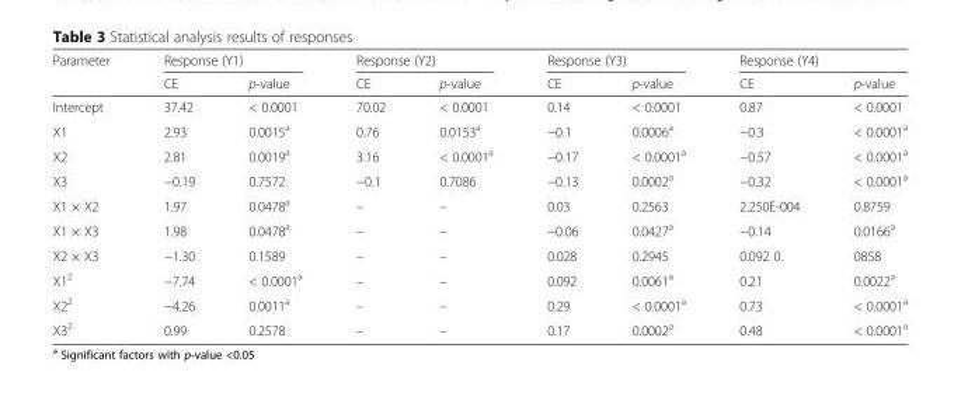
<table><thead><tr><td rowspan="2">Parameter</td><td colspan="2">Response (Y1)</td><td colspan="2">Response (Y2)</td><td colspan="2">Response (Y3)</td><td colspan="2">Response (Y4)</td></tr><tr><td>CE</td><td>p-value</td><td>CE</td><td>p-value</td><td>CE</td><td>p-value</td><td>CE</td><td>p-value</td></tr></thead><tbody><tr><td>Intercept</td><td>37.42</td><td>&lt; 0.0001</td><td>70.02</td><td>&lt; 0.0001</td><td>0.14</td><td>&lt; 0.0001</td><td>0.87</td><td>&lt; 0.0001</td></tr><tr><td>X1</td><td>2.93</td><td>0.0015<sup>a</sup></td><td>0.76</td><td>0.0153<sup>a</sup></td><td>−0.1</td><td>0.0006<sup>a</sup></td><td>−0.3</td><td>&lt; 0.0001<sup>a</sup></td></tr><tr><td>X2</td><td>2.81</td><td>0.0019<sup>a</sup></td><td>3.16</td><td>&lt; 0.0001<sup>a</sup></td><td>−0.17</td><td>&lt; 0.0001<sup>a</sup></td><td>−0.57</td><td>&lt; 0.0001<sup>a</sup></td></tr><tr><td>X3</td><td>−0.19</td><td>0.7572</td><td>−0.1</td><td>0.7086</td><td>−0.13</td><td>0.0002<sup>a</sup></td><td>−0.32</td><td>&lt; 0.0001<sup>a</sup></td></tr><tr><td>X1 × X2</td><td>1.97</td><td>0.0478<sup>a</sup></td><td>–</td><td>–</td><td>0.03</td><td>0.2563</td><td>2.250E-004</td><td>0.8759</td></tr><tr><td>X1 × X3</td><td>1.98</td><td>0.0478<sup>a</sup></td><td>–</td><td>–</td><td>−0.06</td><td>0.0427<sup>a</sup></td><td>−0.14</td><td>0.0166<sup>a</sup></td></tr><tr><td>X2 × X3</td><td>−1.30</td><td>0.1589</td><td>–</td><td>–</td><td>0.028</td><td>0.2945</td><td>0.092 0.</td><td>0858</td></tr><tr><td>X1<sup>2</sup></td><td>−7.74</td><td>&lt; 0.0001<sup>a</sup></td><td>–</td><td>–</td><td>0.092</td><td>0.0061<sup>a</sup></td><td>0.21</td><td>0.0022<sup>a</sup></td></tr><tr><td>X2<sup>2</sup></td><td>−4.26</td><td>0.0011<sup>a</sup></td><td>–</td><td>–</td><td>0.29</td><td>&lt; 0.0001<sup>a</sup></td><td>0.73</td><td>&lt; 0.0001<sup>a</sup></td></tr><tr><td>X3<sup>2</sup></td><td>0.99</td><td>0.2578</td><td>–</td><td>–</td><td>0.17</td><td>0.0002<sup>a</sup></td><td>0.48</td><td>&lt; 0.0001<sup>a</sup></td></tr></tbody></table>